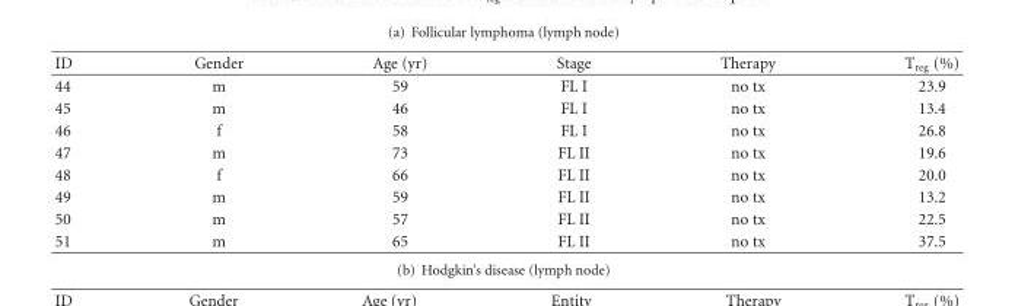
<table><thead><tr><td>ID</td><td>Gender</td><td>Age (yr)</td><td>Stage</td><td>Therapy</td><td>T<sub>reg</sub> (%)</td></tr></thead><tbody><tr><td>44</td><td>m</td><td>59</td><td>FL I</td><td>no tx</td><td>23.9</td></tr><tr><td>45</td><td>m</td><td>46</td><td>FL I</td><td>no tx</td><td>13.4</td></tr><tr><td>46</td><td>f</td><td>58</td><td>FL I</td><td>no tx</td><td>26.8</td></tr><tr><td>47</td><td>m</td><td>73</td><td>FL II</td><td>no tx</td><td>19.6</td></tr><tr><td>48</td><td>f</td><td>66</td><td>FL II</td><td>no tx</td><td>20.0</td></tr><tr><td>49</td><td>m</td><td>59</td><td>FL II</td><td>no tx</td><td>13.2</td></tr><tr><td>50</td><td>m</td><td>57</td><td>FL II</td><td>no tx</td><td>22.5</td></tr><tr><td>51</td><td>m</td><td>65</td><td>FL II</td><td>no tx</td><td>37.5</td></tr></tbody></table>